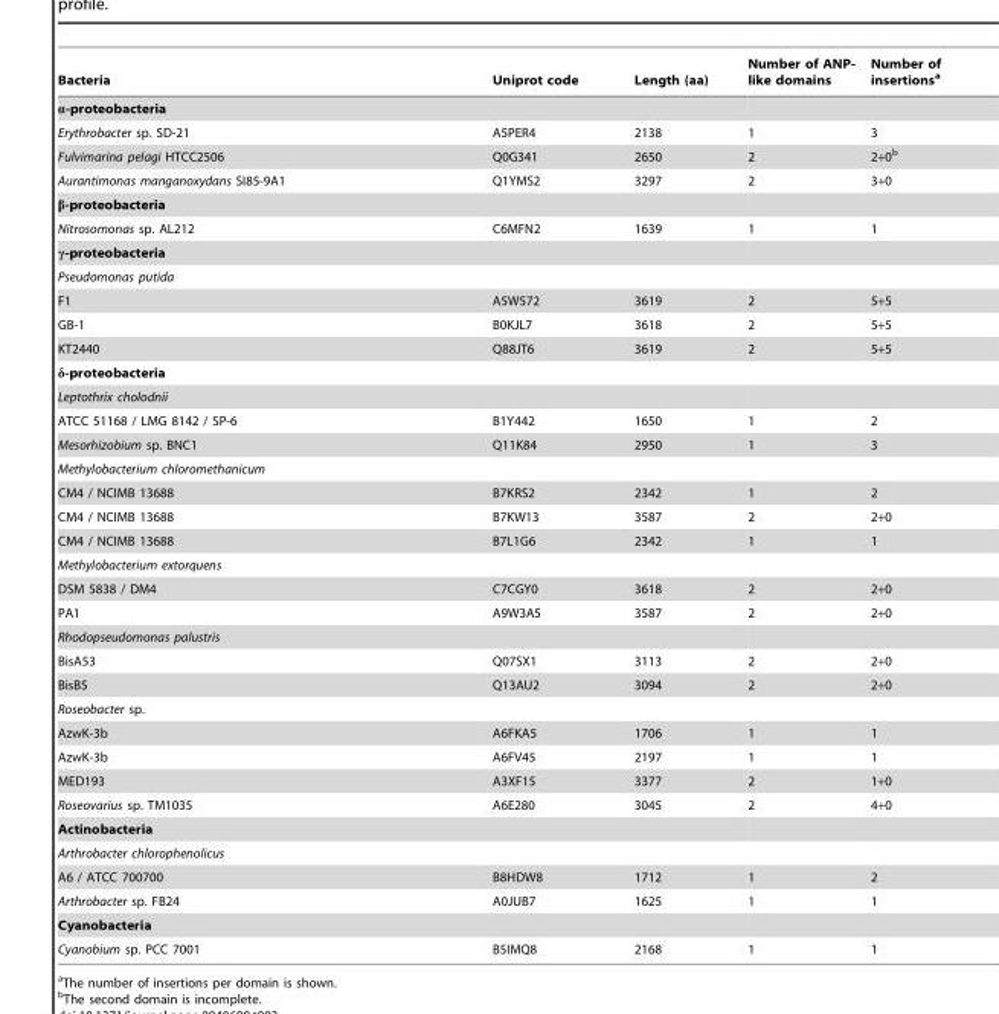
<table><thead><tr><td>Bacteria</td><td>Uniprot code</td><td>Length (aa)</td><td>Number of ANP- like domains</td><td>Number of insertions<sup>a</sup></td></tr></thead><tbody><tr><td colspan="5">α-proteobacteria</td></tr><tr><td>Erythrobacter sp. SD-21</td><td>A5PER4</td><td>2138</td><td>1</td><td>3</td></tr><tr><td>Fulvimarina pelagi HTCC2506</td><td>Q0G341</td><td>2650</td><td>2</td><td>2+0<sup>b</sup></td></tr><tr><td>Aurantimonas manganoxydans SI85-9A1</td><td>Q1YMS2</td><td>3297</td><td>2</td><td>3+0</td></tr><tr><td colspan="5">β-proteobacteria</td></tr><tr><td>Nitrosomonas sp. AL212</td><td>C6MFN2</td><td>1639</td><td>1</td><td>1</td></tr><tr><td colspan="5">γ-proteobacteria</td></tr><tr><td colspan="5">Pseudomonas putida</td></tr><tr><td>F1</td><td>A5W572</td><td>3619</td><td>2</td><td>5+5</td></tr><tr><td>GB-1</td><td>B0KJL7</td><td>3618</td><td>2</td><td>5+5</td></tr><tr><td>KT2440</td><td>Q88JT6</td><td>3619</td><td>2</td><td>5+5</td></tr><tr><td colspan="5">δ-proteobacteria</td></tr><tr><td colspan="5">Leptothrix cholodnii</td></tr><tr><td>ATCC 51168 / LMG 8142 / SP-6</td><td>B1Y442</td><td>1650</td><td>1</td><td>2</td></tr><tr><td>Mesorhizobium sp. BNC1</td><td>Q11K84</td><td>2950</td><td>1</td><td>3</td></tr><tr><td colspan="5">Methylobacterium chloromethanicum</td></tr><tr><td>CM4 / NCIMB 13688</td><td>B7KRS2</td><td>2342</td><td>1</td><td>2</td></tr><tr><td>CM4 / NCIMB 13688</td><td>B7KW13</td><td>3587</td><td>2</td><td>2+0</td></tr><tr><td>CM4 / NCIMB 13688</td><td>B7L1G6</td><td>2342</td><td>1</td><td>1</td></tr><tr><td colspan="5">Methylobacterium extorquens</td></tr><tr><td>DSM 5838 / DM4</td><td>C7CGY0</td><td>3618</td><td>2</td><td>2+0</td></tr><tr><td>PA1</td><td>A9W3A5</td><td>3587</td><td>2</td><td>2+0</td></tr><tr><td colspan="5">Rhodopseudomonas palustris</td></tr><tr><td>BisA53</td><td>Q07SX1</td><td>3113</td><td>2</td><td>2+0</td></tr><tr><td>BisB5</td><td>Q13AU2</td><td>3094</td><td>2</td><td>2+0</td></tr><tr><td colspan="5">Roseobacter sp.</td></tr><tr><td>AzwK-3b</td><td>A6FKA5</td><td>1706</td><td>1</td><td>1</td></tr><tr><td>AzwK-3b</td><td>A6FV45</td><td>2197</td><td>1</td><td>1</td></tr><tr><td>MED193</td><td>A3XF15</td><td>3377</td><td>2</td><td>1+0</td></tr><tr><td>Roseovarius sp. TM1035</td><td>A6E280</td><td>3045</td><td>2</td><td>4+0</td></tr><tr><td colspan="5">Actinobacteria</td></tr><tr><td colspan="5">Arthrobacter chlorophenolicus</td></tr><tr><td>A6 / ATCC 700700</td><td>B8HDW8</td><td>1712</td><td>1</td><td>2</td></tr><tr><td>Arthrobacter sp. FB24</td><td>A0JUB7</td><td>1625</td><td>1</td><td>1</td></tr><tr><td colspan="5">Cyanobacteria</td></tr><tr><td>Cyanobium sp. PCC 7001</td><td>B5IMQ8</td><td>2168</td><td>1</td><td>1</td></tr></tbody></table>